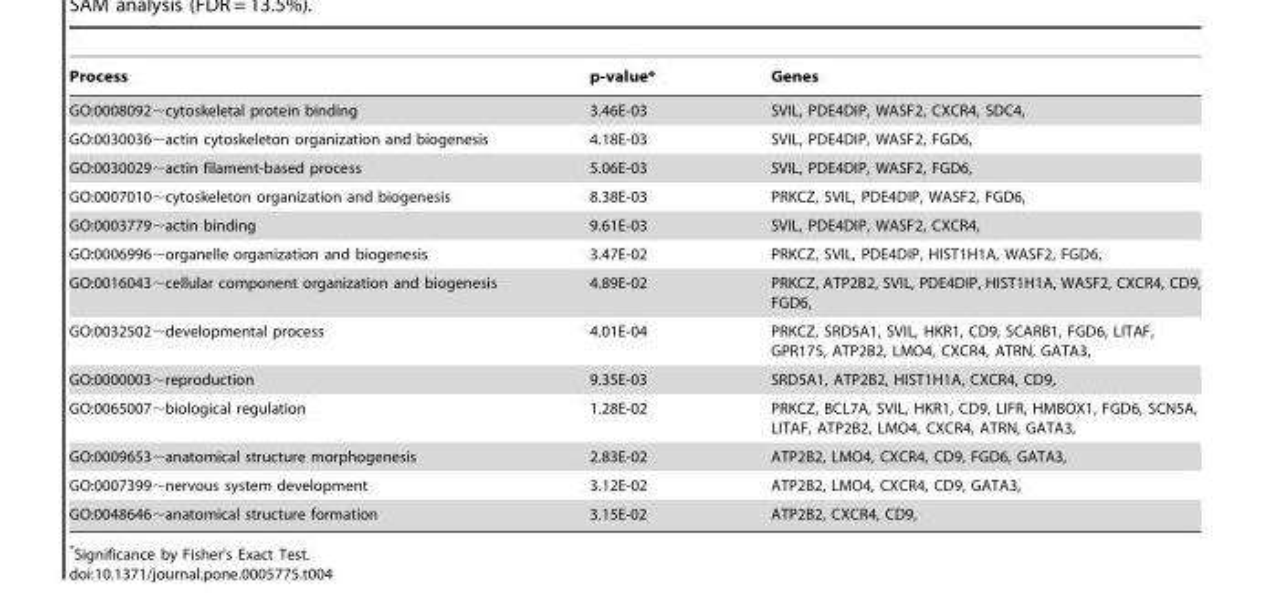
<table><thead><tr><td>Process</td><td>p-value*</td><td>Genes</td></tr></thead><tbody><tr><td>GO:0008092∼cytoskeletal protein binding</td><td>3.46E-03</td><td>SVIL, PDE4DIP, WASF2, CXCR4, SDC4,</td></tr><tr><td>GO:0030036∼actin cytoskeleton organization and biogenesis</td><td>4.18E-03</td><td>SVIL, PDE4DIP, WASF2, FGD6,</td></tr><tr><td>GO:0030029∼actin filament-based process</td><td>5.06E-03</td><td>SVIL, PDE4DIP, WASF2, FGD6,</td></tr><tr><td>GO:0007010∼cytoskeleton organization and biogenesis</td><td>8.38E-03</td><td>PRKCZ, SVIL, PDE4DIP, WASF2, FGD6,</td></tr><tr><td>GO:0003779∼actin binding</td><td>9.61E-03</td><td>SVIL, PDE4DIP, WASF2, CXCR4,</td></tr><tr><td>GO:0006996∼organelle organization and biogenesis</td><td>3.47E-02</td><td>PRKCZ, SVIL, PDE4DIP, HIST1H1A, WASF2, FGD6,</td></tr><tr><td>GO:0016043∼cellular component organization and biogenesis</td><td>4.89E-02</td><td>PRKCZ, ATP2B2, SVIL, PDE4DIP, HIST1H1A, WASF2, CXCR4, CD9, FGD6,</td></tr><tr><td>GO:0032502∼developmental process</td><td>4.01E-04</td><td>PRKCZ, SRD5A1, SVIL, HKR1, CD9, SCARB1, FGD6, LITAF, GPR175, ATP2B2, LMO4, CXCR4, ATRN, GATA3,</td></tr><tr><td>GO:0000003∼reproduction</td><td>9.35E-03</td><td>SRD5A1, ATP2B2, HIST1H1A, CXCR4, CD9,</td></tr><tr><td>GO:0065007∼biological regulation</td><td>1.28E-02</td><td>PRKCZ, BCL7A, SVIL, HKR1, CD9, LIFR, HMBOX1, FGD6, SCN5A, LITAF, ATP2B2, LMO4, CXCR4, ATRN, GATA3,</td></tr><tr><td>GO:0009653∼anatomical structure morphogenesis</td><td>2.83E-02</td><td>ATP2B2, LMO4, CXCR4, CD9, FGD6, GATA3,</td></tr><tr><td>GO:0007399∼nervous system development</td><td>3.12E-02</td><td>ATP2B2, LMO4, CXCR4, CD9, GATA3,</td></tr><tr><td>GO:0048646∼anatomical structure formation</td><td>3.15E-02</td><td>ATP2B2, CXCR4, CD9,</td></tr></tbody></table>